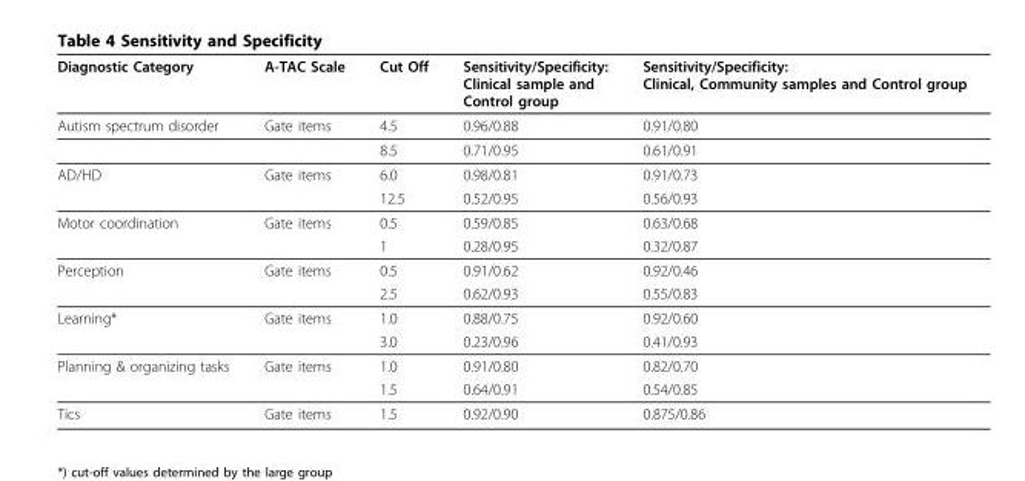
<table><thead><tr><td>Diagnostic Category</td><td>A-TAC Scale</td><td>Cut Off</td><td>Sensitivity/Specificity: Clinical sample and Control group</td><td>Sensitivity/Specificity: Clinical, Community samples and Control group</td></tr></thead><tbody><tr><td rowspan="2">Autism spectrum disorder</td><td>Gate items</td><td>4.5</td><td>0.96/0.88</td><td>0.91/0.80</td></tr><tr><td></td><td>8.5</td><td>0.71/0.95</td><td>0.61/0.91</td></tr><tr><td rowspan="2">AD/HD</td><td>Gate items</td><td>6.0</td><td>0.98/0.81</td><td>0.91/0.73</td></tr><tr><td></td><td>12.5</td><td>0.52/0.95</td><td>0.56/0.93</td></tr><tr><td rowspan="2">Motor coordination</td><td>Gate items</td><td>0.5</td><td>0.59/0.85</td><td>0.63/0.68</td></tr><tr><td></td><td>1</td><td>0.28/0.95</td><td>0.32/0.87</td></tr><tr><td rowspan="2">Perception</td><td>Gate items</td><td>0.5</td><td>0.91/0.62</td><td>0.92/0.46</td></tr><tr><td></td><td>2.5</td><td>0.62/0.93</td><td>0.55/0.83</td></tr><tr><td rowspan="2">Learning*</td><td>Gate items</td><td>1.0</td><td>0.88/0.75</td><td>0.92/0.60</td></tr><tr><td></td><td>3.0</td><td>0.23/0.96</td><td>0.41/0.93</td></tr><tr><td rowspan="2">Planning &amp; organizing tasks</td><td>Gate items</td><td>1.0</td><td>0.91/0.80</td><td>0.82/0.70</td></tr><tr><td></td><td>1.5</td><td>0.64/0.91</td><td>0.54/0.85</td></tr><tr><td>Tics</td><td>Gate items</td><td>1.5</td><td>0.92/0.90</td><td>0.875/0.86</td></tr></tbody></table>